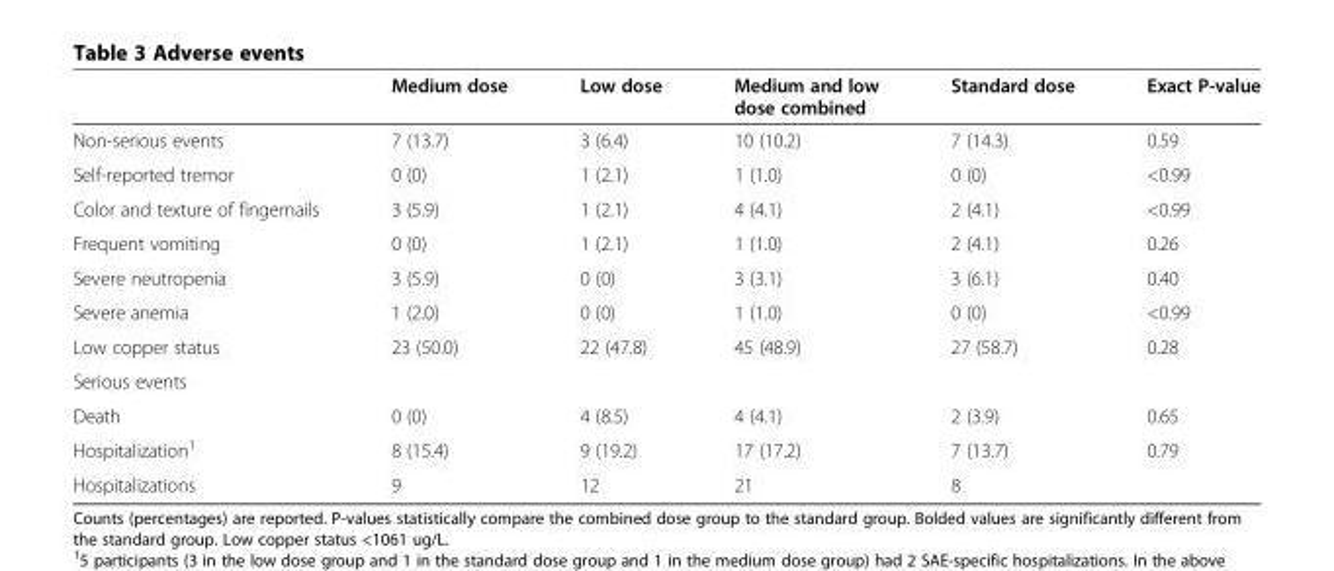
<table><thead><tr><td></td><td>Medium dose</td><td>Low dose</td><td>Medium and low dose combined</td><td>Standard dose</td><td>Exact P-value</td></tr></thead><tbody><tr><td>Non-serious events</td><td>7 (13.7)</td><td>3 (6.4)</td><td>10 (10.2)</td><td>7 (14.3)</td><td>0.59</td></tr><tr><td>Self-reported tremor</td><td>0 (0)</td><td>1 (2.1)</td><td>1 (1.0)</td><td>0 (0)</td><td>&lt;0.99</td></tr><tr><td>Color and texture of fingernails</td><td>3 (5.9)</td><td>1 (2.1)</td><td>4 (4.1)</td><td>2 (4.1)</td><td>&lt;0.99</td></tr><tr><td>Frequent vomiting</td><td>0 (0)</td><td>1 (2.1)</td><td>1 (1.0)</td><td>2 (4.1)</td><td>0.26</td></tr><tr><td>Severe neutropenia</td><td>3 (5.9)</td><td>0 (0)</td><td>3 (3.1)</td><td>3 (6.1)</td><td>0.40</td></tr><tr><td>Severe anemia</td><td>1 (2.0)</td><td>0 (0)</td><td>1 (1.0)</td><td>0 (0)</td><td>&lt;0.99</td></tr><tr><td>Low copper status</td><td>23 (50.0)</td><td>22 (47.8)</td><td>45 (48.9)</td><td>27 (58.7)</td><td>0.28</td></tr><tr><td colspan="6">Serious events</td></tr><tr><td>Death</td><td>0 (0)</td><td>4 (8.5)</td><td>4 (4.1)</td><td>2 (3.9)</td><td>0.65</td></tr><tr><td>Hospitalization<sup>1</sup></td><td>8 (15.4)</td><td>9 (19.2)</td><td>17 (17.2)</td><td>7 (13.7)</td><td>0.79</td></tr><tr><td>Hospitalizations</td><td>9</td><td>12</td><td>21</td><td>8</td><td></td></tr></tbody></table>